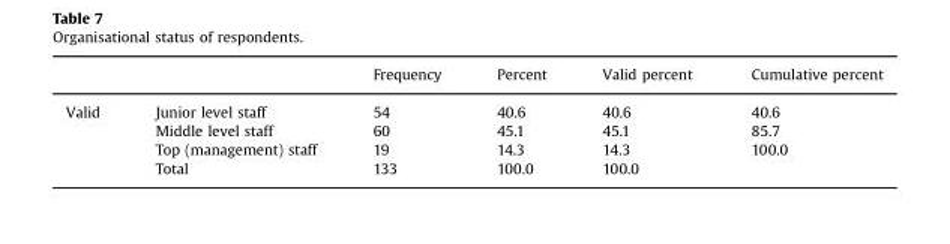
<table><thead><tr><td></td><td></td><td>Frequency</td><td>Percent</td><td>Valid percent</td><td>Cumulative percent</td></tr></thead><tbody><tr><td rowspan="4">Valid</td><td>Junior level staff</td><td>54</td><td>40.6</td><td>40.6</td><td>40.6</td></tr><tr><td>Middle level staff</td><td>60</td><td>45.1</td><td>45.1</td><td>85.7</td></tr><tr><td>Top (management) staff</td><td>19</td><td>14.3</td><td>14.3</td><td>100.0</td></tr><tr><td>Total</td><td>133</td><td>100.0</td><td>100.0</td><td></td></tr></tbody></table>